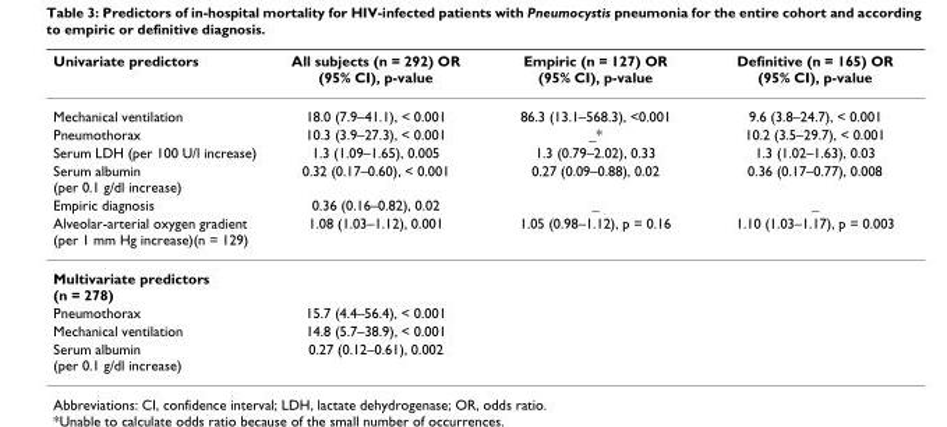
<table><thead><tr><td>Univariate predictors</td><td>All subjects (n = 292) OR (95% CI), p-value</td><td>Empiric (n = 127) OR (95% CI), p-value</td><td>Definitive (n = 165) OR (95% CI), p-value</td></tr></thead><tbody><tr><td>Mechanical ventilation</td><td>18.0 (7.9–41.1), &lt; 0.001</td><td>86.3 (13.1–568.3), &lt;0.001</td><td>9.6 (3.8–24.7), &lt; 0.001</td></tr><tr><td>Pneumothorax</td><td>10.3 (3.9–27.3), &lt; 0.001</td><td>_*</td><td>10.2 (3.5–29.7), &lt; 0.001</td></tr><tr><td>Serum LDH (per 100 U/l increase)</td><td>1.3 (1.09–1.65), 0.005</td><td>1.3 (0.79–2.02), 0.33</td><td>1.3 (1.02–1.63), 0.03</td></tr><tr><td>Serum albumin (per 0.1 g/dl increase)</td><td>0.32 (0.17–0.60), &lt; 0.001</td><td>0.27 (0.09–0.88), 0.02</td><td>0.36 (0.17–0.77), 0.008</td></tr><tr><td>Empiric diagnosis</td><td>0.36 (0.16–0.82), 0.02</td><td>_</td><td>_</td></tr><tr><td>Alveolar-arterial oxygen gradient (per 1 mm Hg increase)(n = 129)</td><td>1.08 (1.03–1.12), 0.001</td><td>1.05 (0.98–1.12), p = 0.16</td><td>1.10 (1.03–1.17), p = 0.003</td></tr><tr><td colspan="4">Multivariate predictors (n = 278)</td></tr><tr><td>Pneumothorax</td><td>15.7 (4.4–56.4), &lt; 0.001</td><td></td><td></td></tr><tr><td>Mechanical ventilation</td><td>14.8 (5.7–38.9), &lt; 0.001</td><td></td><td></td></tr><tr><td>Serum albumin (per 0.1 g/dl increase)</td><td>0.27 (0.12–0.61), 0.002</td><td></td><td></td></tr></tbody></table>